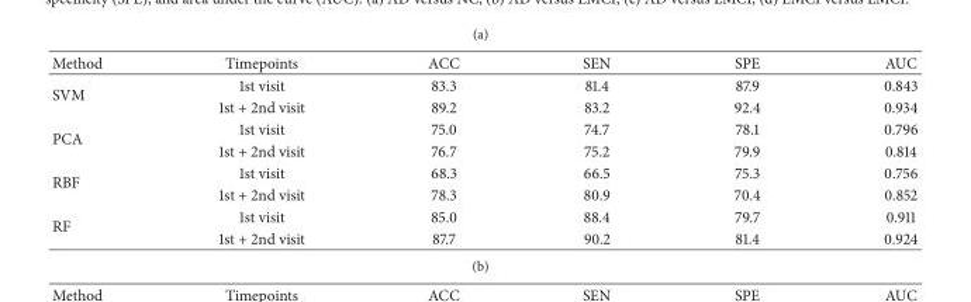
<table><thead><tr><td>Method</td><td>Timepoints</td><td>ACC</td><td>SEN</td><td>SPE</td><td>AUC</td></tr></thead><tbody><tr><td rowspan="2">SVM</td><td>1st visit</td><td>83.3</td><td>81.4</td><td>87.9</td><td>0.843</td></tr><tr><td>1st + 2nd visit</td><td>89.2</td><td>83.2</td><td>92.4</td><td>0.934</td></tr><tr><td rowspan="2">PCA</td><td>1st visit</td><td>75.0</td><td>74.7</td><td>78.1</td><td>0.796</td></tr><tr><td>1st + 2nd visit</td><td>76.7</td><td>75.2</td><td>79.9</td><td>0.814</td></tr><tr><td rowspan="2">RBF</td><td>1st visit</td><td>68.3</td><td>66.5</td><td>75.3</td><td>0.756</td></tr><tr><td>1st + 2nd visit</td><td>78.3</td><td>80.9</td><td>70.4</td><td>0.852</td></tr><tr><td rowspan="2">RF</td><td>1st visit</td><td>85.0</td><td>88.4</td><td>79.7</td><td>0.911</td></tr><tr><td>1st + 2nd visit</td><td>87.7</td><td>90.2</td><td>81.4</td><td>0.924</td></tr></tbody></table>